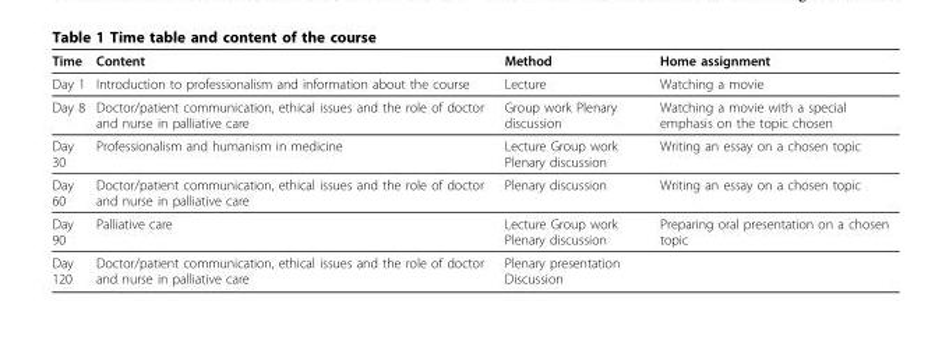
<table><thead><tr><td>Time</td><td>Content</td><td>Method</td><td>Home assignment</td></tr></thead><tbody><tr><td>Day 1</td><td>Introduction to professionalism and information about the course</td><td>Lecture</td><td>Watching a movie</td></tr><tr><td>Day 8</td><td>Doctor/patient communication, ethical issues and the role of doctor and nurse in palliative care</td><td>Group work Plenary discussion</td><td>Watching a movie with a special emphasis on the topic chosen</td></tr><tr><td>Day 30</td><td>Professionalism and humanism in medicine</td><td>Lecture Group work Plenary discussion</td><td>Writing an essay on a chosen topic</td></tr><tr><td>Day 60</td><td>Doctor/patient communication, ethical issues and the role of doctor and nurse in palliative care</td><td>Plenary discussion</td><td>Writing an essay on a chosen topic</td></tr><tr><td>Day 90</td><td>Palliative care</td><td>Lecture Group work Plenary discussion</td><td>Preparing oral presentation on a chosen topic</td></tr><tr><td>Day 120</td><td>Doctor/patient communication, ethical issues and the role of doctor and nurse in palliative care</td><td>Plenary presentation Discussion</td><td></td></tr></tbody></table>